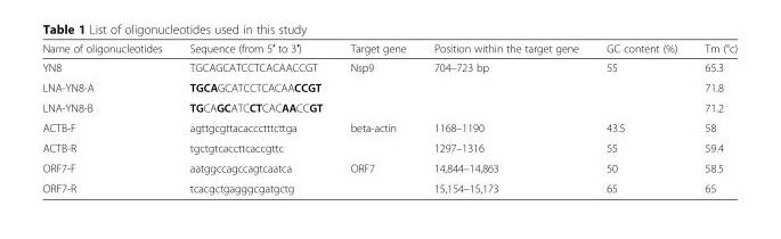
<table><thead><tr><td>Name of oligonucleotides</td><td>Sequence (from 5′ to 3′)</td><td>Target gene</td><td>Position within the target gene</td><td>GC content (%)</td><td>Tm (°c)</td></tr></thead><tbody><tr><td>YN8</td><td>TGCAGCATCCTCACAACCGT</td><td rowspan="3">Nsp9</td><td rowspan="3">704–723 bp</td><td rowspan="3">55</td><td>65.3</td></tr><tr><td>LNA-YN8-A</td><td>TGCAGCATCCTCACAACCGT</td><td>71.8</td></tr><tr><td>LNA-YN8-B</td><td>TGCAGCATCCTCACAACCGT</td><td>71.2</td></tr><tr><td>ACTB-F</td><td>agttgcgttacaccctttcttga</td><td rowspan="2">beta-actin</td><td>1168–1190</td><td>43.5</td><td>58</td></tr><tr><td>ACTB-R</td><td>tgctgtcaccttcaccgttc</td><td>1297–1316</td><td>55</td><td>59.4</td></tr><tr><td>ORF7-F</td><td>aatggccagccagtcaatca</td><td rowspan="2">ORF7</td><td>14,844–14,863</td><td>50</td><td>58.5</td></tr><tr><td>ORF7-R</td><td>tcacgctgagggcgatgctg</td><td>15,154–15,173</td><td>65</td><td>65</td></tr></tbody></table>